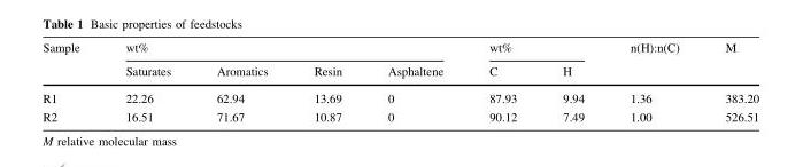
<table><thead><tr><td rowspan="2">Sample</td><td colspan="4">wt%</td><td colspan="2">wt%</td><td rowspan="2">n(H):n(C)</td><td rowspan="2">M</td></tr><tr><td>Saturates</td><td>Aromatics</td><td>Resin</td><td>Asphaltene</td><td>C</td><td>H</td></tr></thead><tbody><tr><td>R1</td><td>22.26</td><td>62.94</td><td>13.69</td><td>0</td><td>87.93</td><td>9.94</td><td>1.36</td><td>383.20</td></tr><tr><td>R2</td><td>16.51</td><td>71.67</td><td>10.87</td><td>0</td><td>90.12</td><td>7.49</td><td>1.00</td><td>526.51</td></tr></tbody></table>